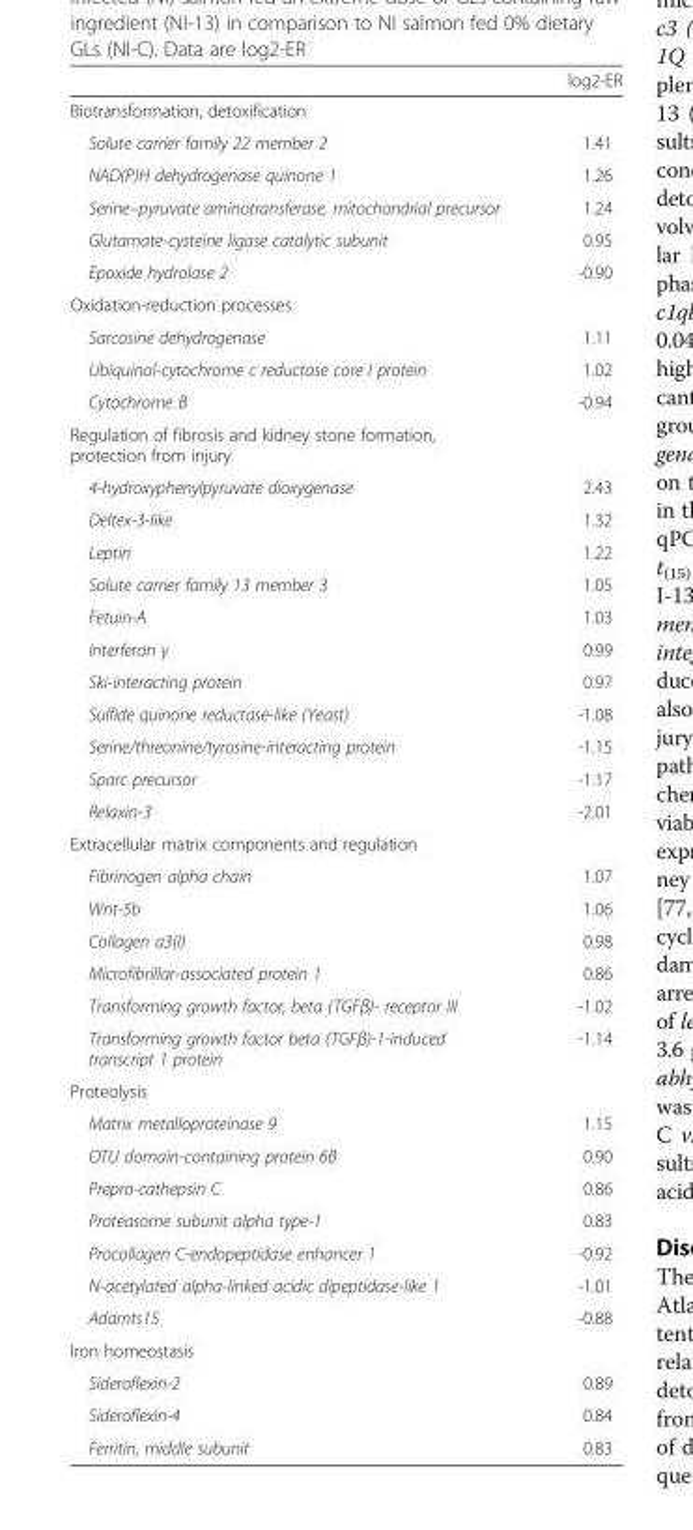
<table><thead><tr><td></td><td>log2-ER</td></tr></thead><tbody><tr><td colspan="2">Biotransformation, detoxification</td></tr><tr><td>Solute carrier family 22 member 2</td><td>1.41</td></tr><tr><td>NAD(P)H dehydrogenase quinone 1</td><td>1.26</td></tr><tr><td>Serine–pyruvate aminotransferase, mitochondrial precursor</td><td>1.24</td></tr><tr><td>Glutamate-cysteine ligase catalytic subunit</td><td>0.95</td></tr><tr><td>Epoxide hydrolase 2</td><td>-0.90</td></tr><tr><td colspan="2">Oxidation-reduction processes</td></tr><tr><td>Sarcosine dehydrogenase</td><td>1.11</td></tr><tr><td>Ubiquinol-cytochrome c reductase core I protein</td><td>1.02</td></tr><tr><td>Cytochrome B</td><td>-0.94</td></tr><tr><td colspan="2">Regulation of fibrosis and kidney stone formation, protection from injury</td></tr><tr><td>4-hydroxyphenylpyruvate dioxygenase</td><td>2.43</td></tr><tr><td>Deltex-3-like</td><td>1.32</td></tr><tr><td>Leptin</td><td>1.22</td></tr><tr><td>Solute carrier family 13 member 3</td><td>1.05</td></tr><tr><td>Fetuin-A</td><td>1.03</td></tr><tr><td>Interferon γ</td><td>0.99</td></tr><tr><td>Ski-interacting protein</td><td>0.97</td></tr><tr><td>Sulfide quinone reductase-like (Yeast)</td><td>-1.08</td></tr><tr><td>Serine/threonine/tyrosine-interacting protein</td><td>-1.15</td></tr><tr><td>Sparc precursor</td><td>-1.17</td></tr><tr><td>Relaxin-3</td><td>-2.01</td></tr><tr><td colspan="2">Extracellular matrix components and regulation</td></tr><tr><td>Fibrinogen alpha chain</td><td>1.07</td></tr><tr><td>Wnt-5b</td><td>1.06</td></tr><tr><td>Collagen a3(I)</td><td>0.98</td></tr><tr><td>Microfibrillar-associated protein 1</td><td>0.86</td></tr><tr><td>Transforming growth factor, beta (TGFβ)- receptor III</td><td>-1.02</td></tr><tr><td>Transforming growth factor beta (TGFβ)-1-induced transcript 1 protein</td><td>-1.14</td></tr><tr><td colspan="2">Proteolysis</td></tr><tr><td>Matrix metalloproteinase 9</td><td>1.15</td></tr><tr><td>OTU domain-containing protein 6B</td><td>0.90</td></tr><tr><td>Prepro-cathepsin C</td><td>0.86</td></tr><tr><td>Proteasome subunit alpha type-1</td><td>0.83</td></tr><tr><td>Procollagen C-endopeptidase enhancer 1</td><td>-0.92</td></tr><tr><td>N-acetylated alpha-linked acidic dipeptidase-like 1</td><td>-1.01</td></tr><tr><td>Adamts15</td><td>-0.88</td></tr><tr><td colspan="2">Iron homeostasis</td></tr><tr><td>Sideroflexin-2</td><td>0.89</td></tr><tr><td>Sideroflexin-4</td><td>0.84</td></tr><tr><td>Ferritin, middle subunit</td><td>0.83</td></tr></tbody></table>